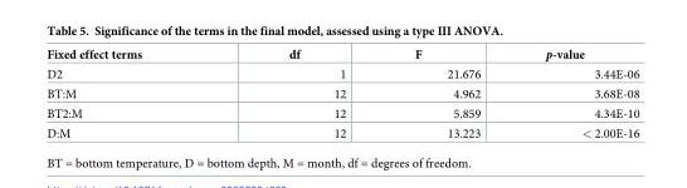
<table><thead><tr><td>Fixed effect terms</td><td>df</td><td>F</td><td>p-value</td></tr></thead><tbody><tr><td>D2</td><td>1</td><td>21.676</td><td>3.44E-06</td></tr><tr><td>BT:M</td><td>12</td><td>4.962</td><td>3.68E-08</td></tr><tr><td>BT2:M</td><td>12</td><td>5.859</td><td>4.34E-10</td></tr><tr><td>D:M</td><td>12</td><td>13.223</td><td>&lt; 2.00E-16</td></tr></tbody></table>